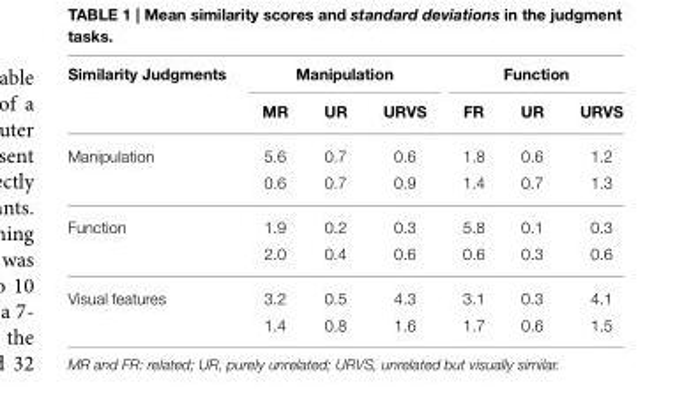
<table><thead><tr><td rowspan="2">Similarity Judgments</td><td colspan="3">Manipulation</td><td colspan="3">Function</td></tr><tr><td>MR</td><td>UR</td><td>URVS</td><td>FR</td><td>UR</td><td>URVS</td></tr></thead><tbody><tr><td rowspan="2">Manipulation</td><td>5.6</td><td>0.7</td><td>0.6</td><td>1.8</td><td>0.6</td><td>1.2</td></tr><tr><td>0.6</td><td>0.7</td><td>0.9</td><td>1.4</td><td>0.7</td><td>1.3</td></tr><tr><td rowspan="2">Function</td><td>1.9</td><td>0.2</td><td>0.3</td><td>5.8</td><td>0.1</td><td>0.3</td></tr><tr><td>2.0</td><td>0.4</td><td>0.6</td><td>0.6</td><td>0.3</td><td>0.6</td></tr><tr><td rowspan="2">Visual features</td><td>3.2</td><td>0.5</td><td>4.3</td><td>3.1</td><td>0.3</td><td>4.1</td></tr><tr><td>1.4</td><td>0.8</td><td>1.6</td><td>1.7</td><td>0.6</td><td>1.5</td></tr></tbody></table>